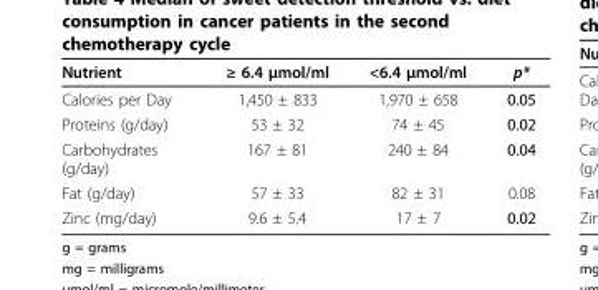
<table><thead><tr><td>Nutrient</td><td>≥ 6.4 μmol/ml</td><td>&lt;6.4 μmol/ml</td><td>p*</td></tr></thead><tbody><tr><td>Calories per Day</td><td>1,450 ± 833</td><td>1,970 ± 658</td><td>0.05</td></tr><tr><td>Proteins (g/day)</td><td>53 ± 32</td><td>74 ± 45</td><td>0.02</td></tr><tr><td>Carbohydrates (g/day)</td><td>167 ± 81</td><td>240 ± 84</td><td>0.04</td></tr><tr><td>Fat (g/day)</td><td>57 ± 33</td><td>82 ± 31</td><td>0.08</td></tr><tr><td>Zinc (mg/day)</td><td>9.6 ± 5.4</td><td>17 ± 7</td><td>0.02</td></tr></tbody></table>